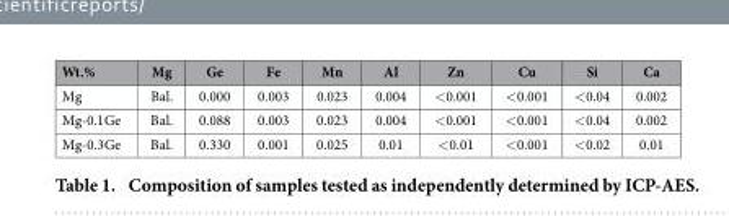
<table><thead><tr><td>Wt.%</td><td>Mg</td><td>Ge</td><td>Fe</td><td>Mn</td><td>Al</td><td>Zn</td><td>Cu</td><td>Si</td><td>Ca</td></tr></thead><tbody><tr><td>Mg</td><td>Bal.</td><td>0.000</td><td>0.003</td><td>0.023</td><td>0.004</td><td>&lt; 0.001</td><td>&lt; 0.001</td><td>&lt; 0.04</td><td>0.002</td></tr><tr><td>Mg-0.1Ge</td><td>Bal.</td><td>0.088</td><td>0.003</td><td>0.023</td><td>0.004</td><td>&lt; 0.001</td><td>&lt; 0.001</td><td>&lt; 0.04</td><td>0.002</td></tr><tr><td>Mg-0.3Ge</td><td>Bal.</td><td>0.330</td><td>0.001</td><td>0.025</td><td>0.01</td><td>&lt; 0.01</td><td>&lt; 0.001</td><td>&lt; 0.02</td><td>0.01</td></tr></tbody></table>